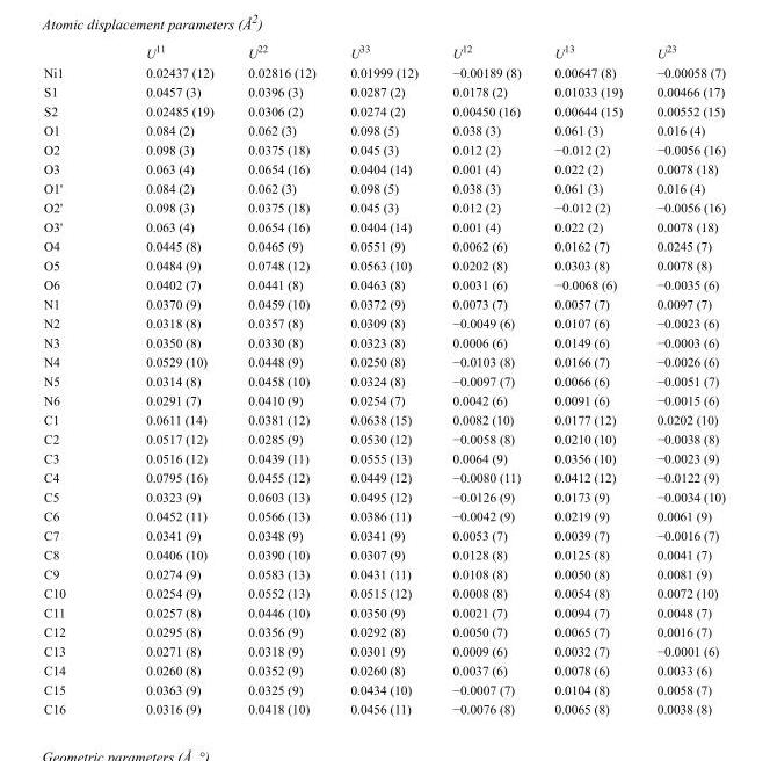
<table><thead><tr><td></td><td>U<sup>11</sup></td><td>U<sup>22</sup></td><td>U<sup>33</sup></td><td>U<sup>12</sup></td><td>U<sup>13</sup></td><td>U<sup>23</sup></td></tr></thead><tbody><tr><td>Ni1</td><td>0.02437 (12)</td><td>0.02816 (12)</td><td>0.01999 (12)</td><td>−0.00189 (8)</td><td>0.00647 (8)</td><td>−0.00058 (7)</td></tr><tr><td>S1</td><td>0.0457 (3)</td><td>0.0396 (3)</td><td>0.0287 (2)</td><td>0.0178 (2)</td><td>0.01033 (19)</td><td>0.00466 (17)</td></tr><tr><td>S2</td><td>0.02485 (19)</td><td>0.0306 (2)</td><td>0.0274 (2)</td><td>0.00450 (16)</td><td>0.00644 (15)</td><td>0.00552 (15)</td></tr><tr><td>O1</td><td>0.084 (2)</td><td>0.062 (3)</td><td>0.098 (5)</td><td>0.038 (3)</td><td>0.061 (3)</td><td>0.016 (4)</td></tr><tr><td>O2</td><td>0.098 (3)</td><td>0.0375 (18)</td><td>0.045 (3)</td><td>0.012 (2)</td><td>−0.012 (2)</td><td>−0.0056 (16)</td></tr><tr><td>O3</td><td>0.063 (4)</td><td>0.0654 (16)</td><td>0.0404 (14)</td><td>0.001 (4)</td><td>0.022 (2)</td><td>0.0078 (18)</td></tr><tr><td>O1&#x27;</td><td>0.084 (2)</td><td>0.062 (3)</td><td>0.098 (5)</td><td>0.038 (3)</td><td>0.061 (3)</td><td>0.016 (4)</td></tr><tr><td>O2&#x27;</td><td>0.098 (3)</td><td>0.0375 (18)</td><td>0.045 (3)</td><td>0.012 (2)</td><td>−0.012 (2)</td><td>−0.0056 (16)</td></tr><tr><td>O3&#x27;</td><td>0.063 (4)</td><td>0.0654 (16)</td><td>0.0404 (14)</td><td>0.001 (4)</td><td>0.022 (2)</td><td>0.0078 (18)</td></tr><tr><td>O4</td><td>0.0445 (8)</td><td>0.0465 (9)</td><td>0.0551 (9)</td><td>0.0062 (6)</td><td>0.0162 (7)</td><td>0.0245 (7)</td></tr><tr><td>O5</td><td>0.0484 (9)</td><td>0.0748 (12)</td><td>0.0563 (10)</td><td>0.0202 (8)</td><td>0.0303 (8)</td><td>0.0078 (8)</td></tr><tr><td>O6</td><td>0.0402 (7)</td><td>0.0441 (8)</td><td>0.0463 (8)</td><td>0.0031 (6)</td><td>−0.0068 (6)</td><td>−0.0035 (6)</td></tr><tr><td>N1</td><td>0.0370 (9)</td><td>0.0459 (10)</td><td>0.0372 (9)</td><td>0.0073 (7)</td><td>0.0057 (7)</td><td>0.0097 (7)</td></tr><tr><td>N2</td><td>0.0318 (8)</td><td>0.0357 (8)</td><td>0.0309 (8)</td><td>−0.0049 (6)</td><td>0.0107 (6)</td><td>−0.0023 (6)</td></tr><tr><td>N3</td><td>0.0350 (8)</td><td>0.0330 (8)</td><td>0.0323 (8)</td><td>0.0006 (6)</td><td>0.0149 (6)</td><td>−0.0003 (6)</td></tr><tr><td>N4</td><td>0.0529 (10)</td><td>0.0448 (9)</td><td>0.0250 (8)</td><td>−0.0103 (8)</td><td>0.0166 (7)</td><td>−0.0026 (6)</td></tr><tr><td>N5</td><td>0.0314 (8)</td><td>0.0458 (10)</td><td>0.0324 (8)</td><td>−0.0097 (7)</td><td>0.0066 (6)</td><td>−0.0051 (7)</td></tr><tr><td>N6</td><td>0.0291 (7)</td><td>0.0410 (9)</td><td>0.0254 (7)</td><td>0.0042 (6)</td><td>0.0091 (6)</td><td>−0.0015 (6)</td></tr><tr><td>C1</td><td>0.0611 (14)</td><td>0.0381 (12)</td><td>0.0638 (15)</td><td>0.0082 (10)</td><td>0.0177 (12)</td><td>0.0202 (10)</td></tr><tr><td>C2</td><td>0.0517 (12)</td><td>0.0285 (9)</td><td>0.0530 (12)</td><td>−0.0058 (8)</td><td>0.0210 (10)</td><td>−0.0038 (8)</td></tr><tr><td>C3</td><td>0.0516 (12)</td><td>0.0439 (11)</td><td>0.0555 (13)</td><td>0.0064 (9)</td><td>0.0356 (10)</td><td>−0.0023 (9)</td></tr><tr><td>C4</td><td>0.0795 (16)</td><td>0.0455 (12)</td><td>0.0449 (12)</td><td>−0.0080 (11)</td><td>0.0412 (12)</td><td>−0.0122 (9)</td></tr><tr><td>C5</td><td>0.0323 (9)</td><td>0.0603 (13)</td><td>0.0495 (12)</td><td>−0.0126 (9)</td><td>0.0173 (9)</td><td>−0.0034 (10)</td></tr><tr><td>C6</td><td>0.0452 (11)</td><td>0.0566 (13)</td><td>0.0386 (11)</td><td>−0.0042 (9)</td><td>0.0219 (9)</td><td>0.0061 (9)</td></tr><tr><td>C7</td><td>0.0341 (9)</td><td>0.0348 (9)</td><td>0.0341 (9)</td><td>0.0053 (7)</td><td>0.0039 (7)</td><td>−0.0016 (7)</td></tr><tr><td>C8</td><td>0.0406 (10)</td><td>0.0390 (10)</td><td>0.0307 (9)</td><td>0.0128 (8)</td><td>0.0125 (8)</td><td>0.0041 (7)</td></tr><tr><td>C9</td><td>0.0274 (9)</td><td>0.0583 (13)</td><td>0.0431 (11)</td><td>0.0108 (8)</td><td>0.0050 (8)</td><td>0.0081 (9)</td></tr><tr><td>C10</td><td>0.0254 (9)</td><td>0.0552 (13)</td><td>0.0515 (12)</td><td>0.0008 (8)</td><td>0.0054 (8)</td><td>0.0072 (10)</td></tr><tr><td>C11</td><td>0.0257 (8)</td><td>0.0446 (10)</td><td>0.0350 (9)</td><td>0.0021 (7)</td><td>0.0094 (7)</td><td>0.0048 (7)</td></tr><tr><td>C12</td><td>0.0295 (8)</td><td>0.0356 (9)</td><td>0.0292 (8)</td><td>0.0050 (7)</td><td>0.0065 (7)</td><td>0.0016 (7)</td></tr><tr><td>C13</td><td>0.0271 (8)</td><td>0.0318 (9)</td><td>0.0301 (9)</td><td>0.0009 (6)</td><td>0.0032 (7)</td><td>−0.0001 (6)</td></tr><tr><td>C14</td><td>0.0260 (8)</td><td>0.0352 (9)</td><td>0.0260 (8)</td><td>0.0037 (6)</td><td>0.0078 (6)</td><td>0.0033 (6)</td></tr><tr><td>C15</td><td>0.0363 (9)</td><td>0.0325 (9)</td><td>0.0434 (10)</td><td>−0.0007 (7)</td><td>0.0104 (8)</td><td>0.0058 (7)</td></tr><tr><td>C16</td><td>0.0316 (9)</td><td>0.0418 (10)</td><td>0.0456 (11)</td><td>−0.0076 (8)</td><td>0.0065 (8)</td><td>0.0038 (8)</td></tr></tbody></table>